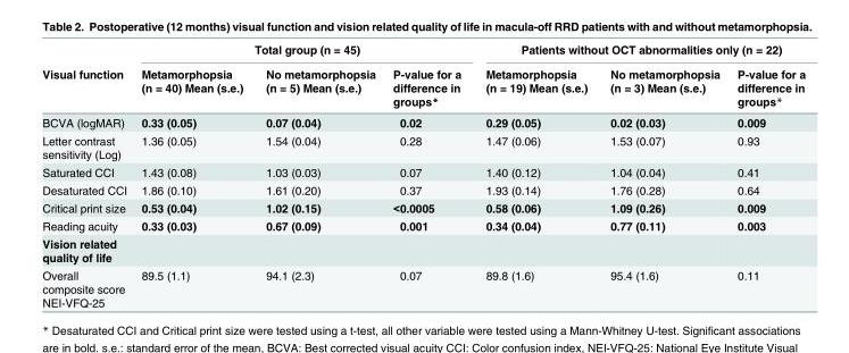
<table><thead><tr><td rowspan="2">Visual function</td><td colspan="3">Total group (n = 45)</td><td colspan="3">Patients without OCT abnormalities only (n = 22)</td></tr><tr><td>Metamorphopsia (n = 40) Mean (s.e.)</td><td>No metamorphopsia (n = 5) Mean (s.e.)</td><td>P-value for a difference in groups*</td><td>Metamorphopsia (n = 19) Mean (s.e.)</td><td>No metamorphopsia (n = 3) Mean (s.e.)</td><td>P-value for a difference in groups*</td></tr></thead><tbody><tr><td>BCVA (logMAR)</td><td>0.33 (0.05)</td><td>0.07 (0.04)</td><td>0.02</td><td>0.29 (0.05)</td><td>0.02 (0.03)</td><td>0.009</td></tr><tr><td>Letter contrast sensitivity (Log)</td><td>1.36 (0.05)</td><td>1.54 (0.04)</td><td>0.28</td><td>1.47 (0.06)</td><td>1.53 (0.07)</td><td>0.93</td></tr><tr><td>Saturated CCI</td><td>1.43 (0.08)</td><td>1.03 (0.03)</td><td>0.07</td><td>1.40 (0.12)</td><td>1.04 (0.04)</td><td>0.41</td></tr><tr><td>Desaturated CCI</td><td>1.86 (0.10)</td><td>1.61 (0.20)</td><td>0.37</td><td>1.93 (0.14)</td><td>1.76 (0.28)</td><td>0.64</td></tr><tr><td>Critical print size</td><td>0.53 (0.04)</td><td>1.02 (0.15)</td><td>&lt;0.0005</td><td>0.58 (0.06)</td><td>1.09 (0.26)</td><td>0.009</td></tr><tr><td>Reading acuity</td><td>0.33 (0.03)</td><td>0.67 (0.09)</td><td>0.001</td><td>0.34 (0.04)</td><td>0.77 (0.11)</td><td>0.003</td></tr><tr><td colspan="7">Vision related quality of life</td></tr><tr><td>Overall composite score NEI-VFQ-25</td><td>89.5 (1.1)</td><td>94.1 (2.3)</td><td>0.07</td><td>89.8 (1.6)</td><td>95.4 (1.6)</td><td>0.11</td></tr></tbody></table>